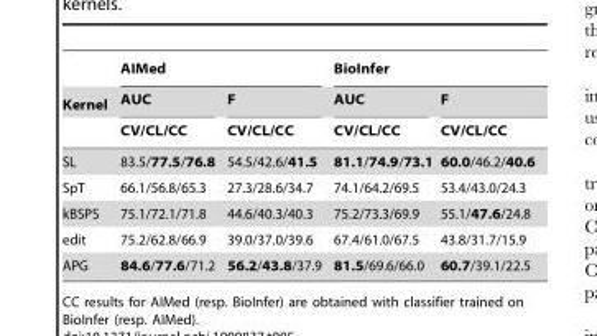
<table><thead><tr><td rowspan="3">Kernel</td><td colspan="2">AIMed</td><td colspan="2">BioInfer</td></tr><tr><td rowspan="2">AUC CV/CL/CC</td><td rowspan="2">F CV/CL/CC</td><td rowspan="2">AUC CV/CL/CC</td><td rowspan="2">F CV/CL/CC</td></tr><tr></tr></thead><tbody><tr><td>SL</td><td>83.5/77.5/76.8</td><td>54.5/42.6/41.5</td><td>81.1/74.9/73.1</td><td>60.0/46.2/40.6</td></tr><tr><td>SpT</td><td>66.1/56.8/65.3</td><td>27.3/28.6/34.7</td><td>74.1/64.2/69.5</td><td>53.4/43.0/24.3</td></tr><tr><td>kBSPS</td><td>75.1/72.1/71.8</td><td>44.6/40.3/40.3</td><td>75.2/73.3/69.9</td><td>55.1/47.6/24.8</td></tr><tr><td>edit</td><td>75.2/62.8/66.9</td><td>39.0/37.0/39.6</td><td>67.4/61.0/67.5</td><td>43.8/31.7/15.9</td></tr><tr><td>APG</td><td>84.6/77.6/71.2</td><td>56.2/43.8/37.9</td><td>81.5/69.6/66.0</td><td>60.7/39.1/22.5</td></tr></tbody></table>